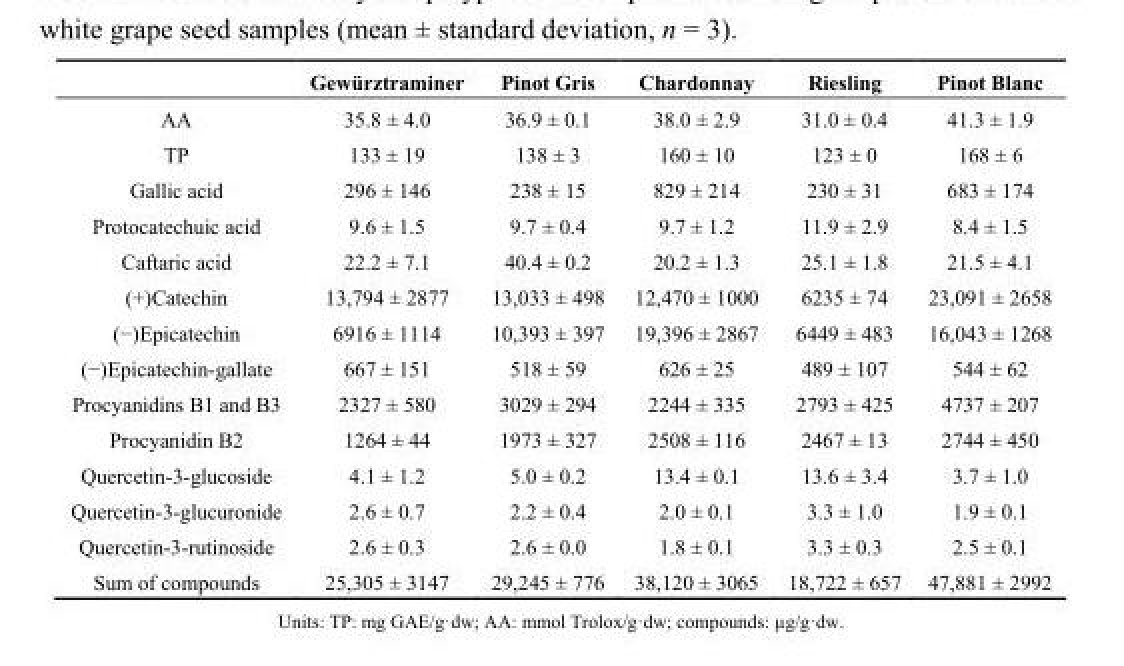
<table><thead><tr><td></td><td>Gewürztraminer</td><td>Pinot Gris</td><td>Chardonnay</td><td>Riesling</td><td>Pinot Blanc</td></tr></thead><tbody><tr><td>AA</td><td>35.8 ± 4.0</td><td>36.9 ± 0.1</td><td>38.0 ± 2.9</td><td>31.0 ± 0.4</td><td>41.3 ± 1.9</td></tr><tr><td>TP</td><td>133 ± 19</td><td>138 ± 3</td><td>160 ± 10</td><td>123 ± 0</td><td>168 ± 6</td></tr><tr><td>Gallic acid</td><td>296 ± 146</td><td>238 ± 15</td><td>829 ± 214</td><td>230 ± 31</td><td>683 ± 174</td></tr><tr><td>Protocatechuic acid</td><td>9.6 ± 1.5</td><td>9.7 ± 0.4</td><td>9.7 ± 1.2</td><td>11.9 ± 2.9</td><td>8.4 ± 1.5</td></tr><tr><td>Caftaric acid</td><td>22.2 ± 7.1</td><td>40.4 ± 0.2</td><td>20.2 ± 1.3</td><td>25.1 ± 1.8</td><td>21.5 ± 4.1</td></tr><tr><td>(+)Catechin</td><td>13,794 ± 2877</td><td>13,033 ± 498</td><td>12,470 ± 1000</td><td>6235 ± 74</td><td>23,091 ± 2658</td></tr><tr><td>(−)Epicatechin</td><td>6916 ± 1114</td><td>10,393 ± 397</td><td>19,396 ± 2867</td><td>6449 ± 483</td><td>16,043 ± 1268</td></tr><tr><td>(−)Epicatechin-gallate</td><td>667 ± 151</td><td>518 ± 59</td><td>626 ± 25</td><td>489 ± 107</td><td>544 ± 62</td></tr><tr><td>Procyanidins B1 and B3</td><td>2327 ± 580</td><td>3029 ± 294</td><td>2244 ± 335</td><td>2793 ± 425</td><td>4737 ± 207</td></tr><tr><td>Procyanidin B2</td><td>1264 ± 44</td><td>1973 ± 327</td><td>2508 ± 116</td><td>2467 ± 13</td><td>2744 ± 450</td></tr><tr><td>Quercetin-3-glucoside</td><td>4.1 ± 1.2</td><td>5.0 ± 0.2</td><td>13.4 ± 0.1</td><td>13.6 ± 3.4</td><td>3.7 ± 1.0</td></tr><tr><td>Quercetin-3-glucuronide</td><td>2.6 ± 0.7</td><td>2.2 ± 0.4</td><td>2.0 ± 0.1</td><td>3.3 ± 1.0</td><td>1.9 ± 0.1</td></tr><tr><td>Quercetin-3-rutinoside</td><td>2.6 ± 0.3</td><td>2.6 ± 0.0</td><td>1.8 ± 0.1</td><td>3.3 ± 0.3</td><td>2.5 ± 0.1</td></tr><tr><td>Sum of compounds</td><td>25,305 ± 3147</td><td>29,245 ± 776</td><td>38,120 ± 3065</td><td>18,722 ± 657</td><td>47,881 ± 2992</td></tr></tbody></table>